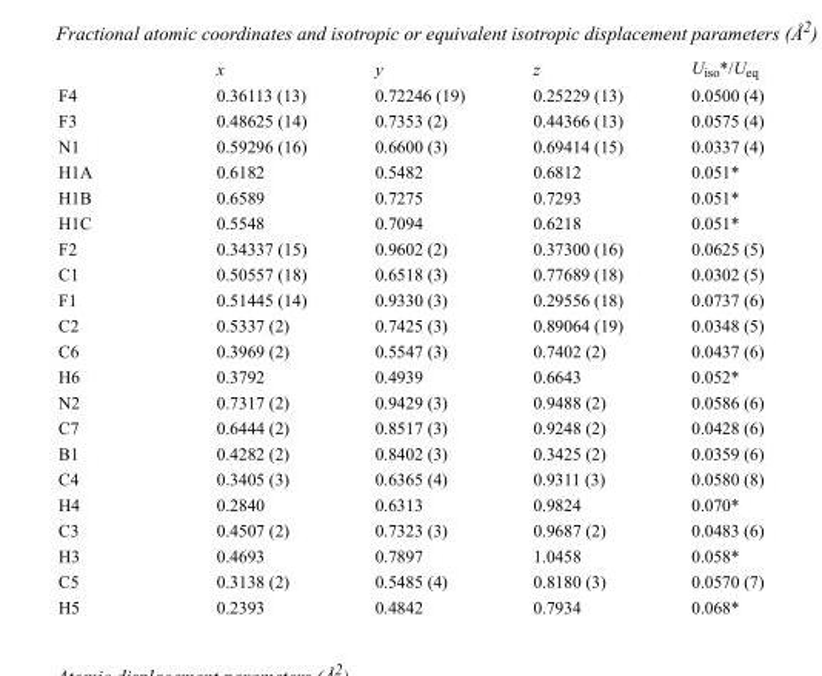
<table><thead><tr><td></td><td>x</td><td>y</td><td>z</td><td>U<sub>iso</sub>*/U<sub>eq</sub></td></tr></thead><tbody><tr><td>F4</td><td>0.36113 (13)</td><td>0.72246 (19)</td><td>0.25229 (13)</td><td>0.0500 (4)</td></tr><tr><td>F3</td><td>0.48625 (14)</td><td>0.7353 (2)</td><td>0.44366 (13)</td><td>0.0575 (4)</td></tr><tr><td>N1</td><td>0.59296 (16)</td><td>0.6600 (3)</td><td>0.69414 (15)</td><td>0.0337 (4)</td></tr><tr><td>H1A</td><td>0.6182</td><td>0.5482</td><td>0.6812</td><td>0.051*</td></tr><tr><td>H1B</td><td>0.6589</td><td>0.7275</td><td>0.7293</td><td>0.051*</td></tr><tr><td>H1C</td><td>0.5548</td><td>0.7094</td><td>0.6218</td><td>0.051*</td></tr><tr><td>F2</td><td>0.34337 (15)</td><td>0.9602 (2)</td><td>0.37300 (16)</td><td>0.0625 (5)</td></tr><tr><td>C1</td><td>0.50557 (18)</td><td>0.6518 (3)</td><td>0.77689 (18)</td><td>0.0302 (5)</td></tr><tr><td>F1</td><td>0.51445 (14)</td><td>0.9330 (3)</td><td>0.29556 (18)</td><td>0.0737 (6)</td></tr><tr><td>C2</td><td>0.5337 (2)</td><td>0.7425 (3)</td><td>0.89064 (19)</td><td>0.0348 (5)</td></tr><tr><td>C6</td><td>0.3969 (2)</td><td>0.5547 (3)</td><td>0.7402 (2)</td><td>0.0437 (6)</td></tr><tr><td>H6</td><td>0.3792</td><td>0.4939</td><td>0.6643</td><td>0.052*</td></tr><tr><td>N2</td><td>0.7317 (2)</td><td>0.9429 (3)</td><td>0.9488 (2)</td><td>0.0586 (6)</td></tr><tr><td>C7</td><td>0.6444 (2)</td><td>0.8517 (3)</td><td>0.9248 (2)</td><td>0.0428 (6)</td></tr><tr><td>B1</td><td>0.4282 (2)</td><td>0.8402 (3)</td><td>0.3425 (2)</td><td>0.0359 (6)</td></tr><tr><td>C4</td><td>0.3405 (3)</td><td>0.6365 (4)</td><td>0.9311 (3)</td><td>0.0580 (8)</td></tr><tr><td>H4</td><td>0.2840</td><td>0.6313</td><td>0.9824</td><td>0.070*</td></tr><tr><td>C3</td><td>0.4507 (2)</td><td>0.7323 (3)</td><td>0.9687 (2)</td><td>0.0483 (6)</td></tr><tr><td>H3</td><td>0.4693</td><td>0.7897</td><td>1.0458</td><td>0.058*</td></tr><tr><td>C5</td><td>0.3138 (2)</td><td>0.5485 (4)</td><td>0.8180 (3)</td><td>0.0570 (7)</td></tr><tr><td>H5</td><td>0.2393</td><td>0.4842</td><td>0.7934</td><td>0.068*</td></tr></tbody></table>